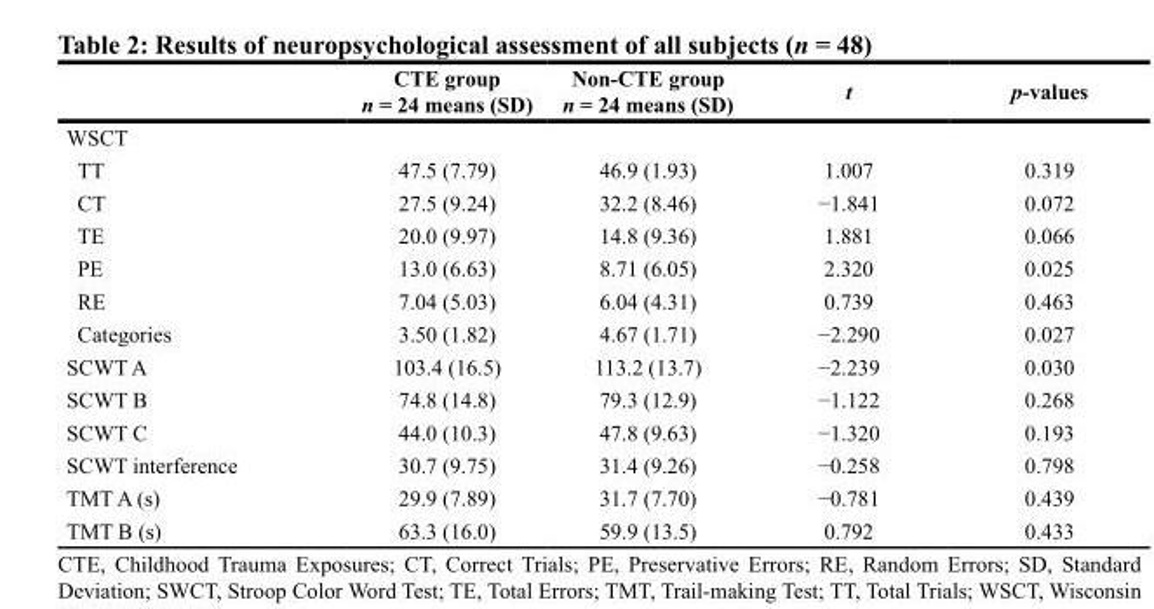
<table><thead><tr><td></td><td>CTE group n = 24 means (SD)</td><td>Non-CTE group n = 24 means (SD)</td><td>t</td><td>p-values</td></tr></thead><tbody><tr><td colspan="5">WSCT</td></tr><tr><td>TT</td><td>47.5 (7.79)</td><td>46.9 (1.93)</td><td>1.007</td><td>0.319</td></tr><tr><td>CT</td><td>27.5 (9.24)</td><td>32.2 (8.46)</td><td>−1.841</td><td>0.072</td></tr><tr><td>TE</td><td>20.0 (9.97)</td><td>14.8 (9.36)</td><td>1.881</td><td>0.066</td></tr><tr><td>PE</td><td>13.0 (6.63)</td><td>8.71 (6.05)</td><td>2.320</td><td>0.025</td></tr><tr><td>RE</td><td>7.04 (5.03)</td><td>6.04 (4.31)</td><td>0.739</td><td>0.463</td></tr><tr><td>Categories</td><td>3.50 (1.82)</td><td>4.67 (1.71)</td><td>−2.290</td><td>0.027</td></tr><tr><td>SCWT A</td><td>103.4 (16.5)</td><td>113.2 (13.7)</td><td>−2.239</td><td>0.030</td></tr><tr><td>SCWT B</td><td>74.8 (14.8)</td><td>79.3 (12.9)</td><td>−1.122</td><td>0.268</td></tr><tr><td>SCWT C</td><td>44.0 (10.3)</td><td>47.8 (9.63)</td><td>−1.320</td><td>0.193</td></tr><tr><td>SCWT interference</td><td>30.7 (9.75)</td><td>31.4 (9.26)</td><td>−0.258</td><td>0.798</td></tr><tr><td>TMT A (s)</td><td>29.9 (7.89)</td><td>31.7 (7.70)</td><td>−0.781</td><td>0.439</td></tr><tr><td>TMT B (s)</td><td>63.3 (16.0)</td><td>59.9 (13.5)</td><td>0.792</td><td>0.433</td></tr></tbody></table>